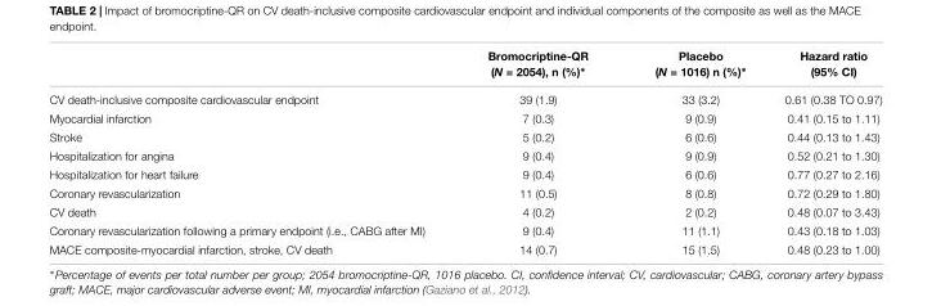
<table><thead><tr><td></td><td>Bromocriptine-QR (N = 2054), n (%)∗</td><td>Placebo (N = 1016) n (%)∗</td><td>Hazard ratio (95% CI)</td></tr></thead><tbody><tr><td>CV death-inclusive composite cardiovascular endpoint</td><td>39 (1.9)</td><td>33 (3.2)</td><td>0.61 (0.38 TO 0.97)</td></tr><tr><td>Myocardial infarction</td><td>7 (0.3)</td><td>9 (0.9)</td><td>0.41 (0.15 to 1.11)</td></tr><tr><td>Stroke</td><td>5 (0.2)</td><td>6 (0.6)</td><td>0.44 (0.13 to 1.43)</td></tr><tr><td>Hospitalization for angina</td><td>9 (0.4)</td><td>9 (0.9)</td><td>0.52 (0.21 to 1.30)</td></tr><tr><td>Hospitalization for heart failure</td><td>9 (0.4)</td><td>6 (0.6)</td><td>0.77 (0.27 to 2.16)</td></tr><tr><td>Coronary revascularization</td><td>11 (0.5)</td><td>8 (0.8)</td><td>0.72 (0.29 to 1.80)</td></tr><tr><td>CV death</td><td>4 (0.2)</td><td>2 (0.2)</td><td>0.48 (0.07 to 3.43)</td></tr><tr><td>Coronary revascularization following a primary endpoint (i.e., CABG after MI)</td><td>9 (0.4)</td><td>11 (1.1)</td><td>0.43 (0.18 to 1.03)</td></tr><tr><td>MACE composite-myocardial infarction, stroke, CV death</td><td>14 (0.7)</td><td>15 (1.5)</td><td>0.48 (0.23 to 1.00)</td></tr></tbody></table>